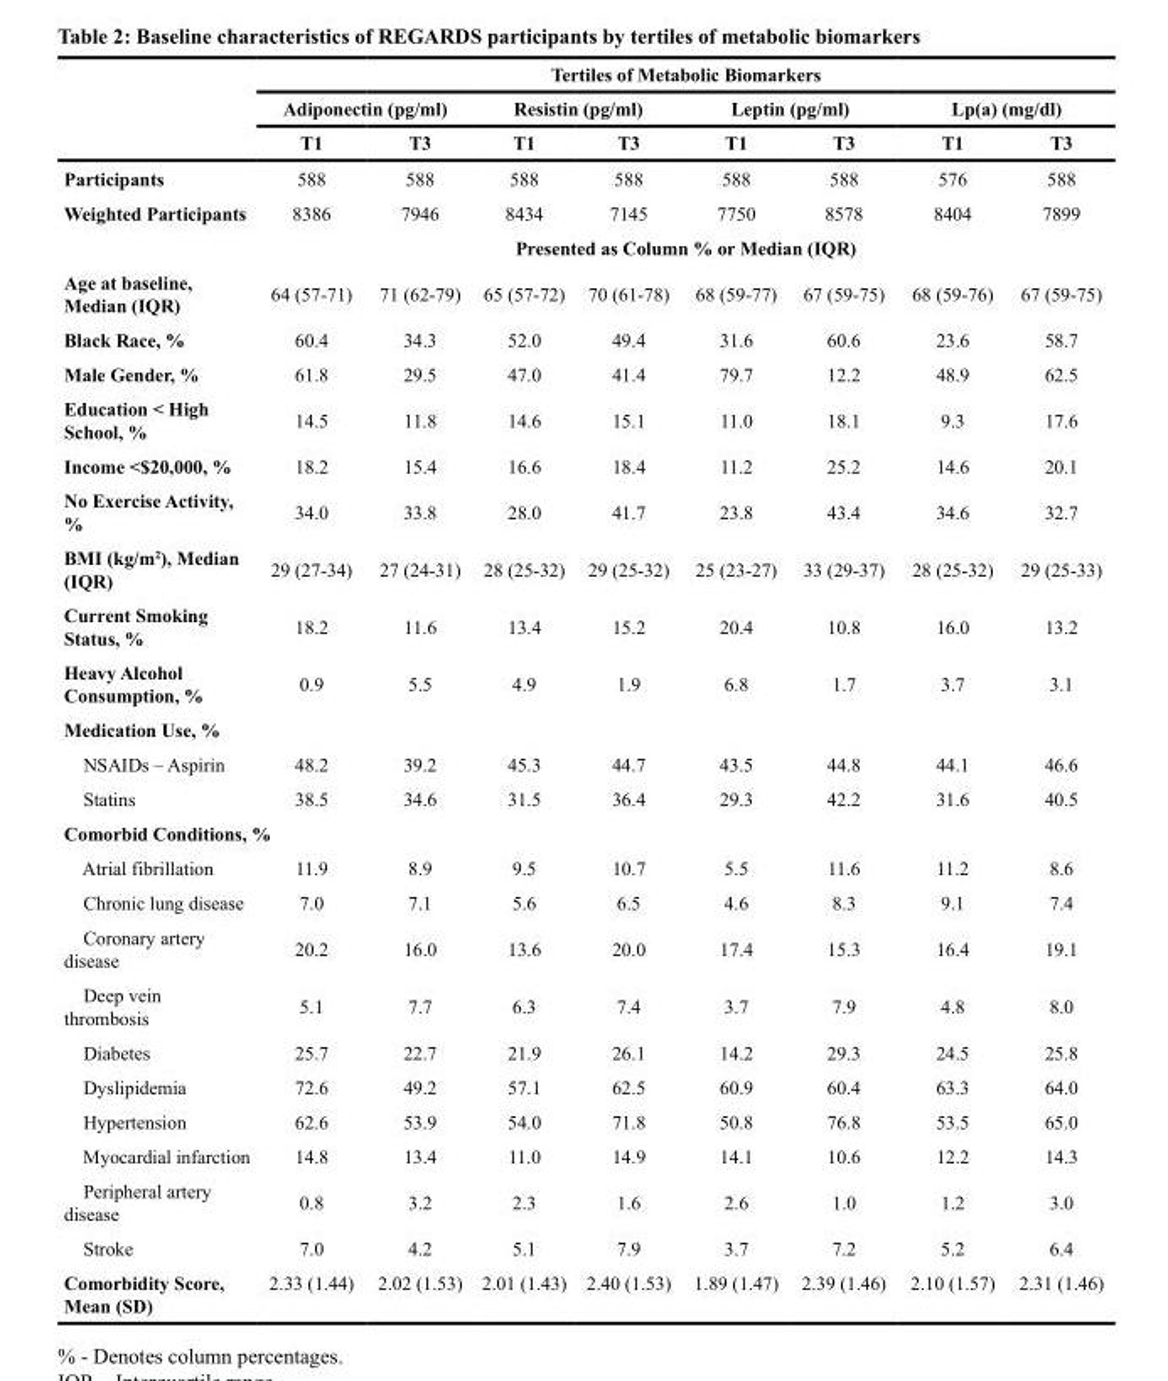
<table><thead><tr><td rowspan="3"></td><td colspan="8">Tertiles of Metabolic Biomarkers</td></tr><tr><td colspan="2">Adiponectin (pg/ml)</td><td colspan="2">Resistin (pg/ml)</td><td colspan="2">Leptin (pg/ml)</td><td colspan="2">Lp(a) (mg/dl)</td></tr><tr><td>T1</td><td>T3</td><td>T1</td><td>T3</td><td>T1</td><td>T3</td><td>T1</td><td>T3</td></tr></thead><tbody><tr><td>Participants</td><td>588</td><td>588</td><td>588</td><td>588</td><td>588</td><td>588</td><td>576</td><td>588</td></tr><tr><td rowspan="2">Weighted Participants</td><td>8386</td><td>7946</td><td>8434</td><td>7145</td><td>7750</td><td>8578</td><td>8404</td><td>7899</td></tr><tr><td colspan="8">Presented as Column % or Median (IQR)</td></tr><tr><td>Age at baseline, Median (IQR)</td><td>64 (57-71)</td><td>71 (62-79)</td><td>65 (57-72)</td><td>70 (61-78)</td><td>68 (59-77)</td><td>67 (59-75)</td><td>68 (59-76)</td><td>67 (59-75)</td></tr><tr><td>Black Race, %</td><td>60.4</td><td>34.3</td><td>52.0</td><td>49.4</td><td>31.6</td><td>60.6</td><td>23.6</td><td>58.7</td></tr><tr><td>Male Gender, %</td><td>61.8</td><td>29.5</td><td>47.0</td><td>41.4</td><td>79.7</td><td>12.2</td><td>48.9</td><td>62.5</td></tr><tr><td>Education &lt; High School, %</td><td>14.5</td><td>11.8</td><td>14.6</td><td>15.1</td><td>11.0</td><td>18.1</td><td>9.3</td><td>17.6</td></tr><tr><td>Income &lt;$20,000, %</td><td>18.2</td><td>15.4</td><td>16.6</td><td>18.4</td><td>11.2</td><td>25.2</td><td>14.6</td><td>20.1</td></tr><tr><td>No Exercise Activity, %</td><td>34.0</td><td>33.8</td><td>28.0</td><td>41.7</td><td>23.8</td><td>43.4</td><td>34.6</td><td>32.7</td></tr><tr><td>BMI (kg/m<sup>2</sup>), Median (IQR)</td><td>29 (27-34)</td><td>27 (24-31)</td><td>28 (25-32)</td><td>29 (25-32)</td><td>25 (23-27)</td><td>33 (29-37)</td><td>28 (25-32)</td><td>29 (25-33)</td></tr><tr><td>Current Smoking Status, %</td><td>18.2</td><td>11.6</td><td>13.4</td><td>15.2</td><td>20.4</td><td>10.8</td><td>16.0</td><td>13.2</td></tr><tr><td>Heavy Alcohol Consumption, %</td><td>0.9</td><td>5.5</td><td>4.9</td><td>1.9</td><td>6.8</td><td>1.7</td><td>3.7</td><td>3.1</td></tr><tr><td colspan="9">Medication Use, %</td></tr><tr><td>NSAIDs – Aspirin</td><td>48.2</td><td>39.2</td><td>45.3</td><td>44.7</td><td>43.5</td><td>44.8</td><td>44.1</td><td>46.6</td></tr><tr><td>Statins</td><td>38.5</td><td>34.6</td><td>31.5</td><td>36.4</td><td>29.3</td><td>42.2</td><td>31.6</td><td>40.5</td></tr><tr><td colspan="9">Comorbid Conditions, %</td></tr><tr><td>Atrial fibrillation</td><td>11.9</td><td>8.9</td><td>9.5</td><td>10.7</td><td>5.5</td><td>11.6</td><td>11.2</td><td>8.6</td></tr><tr><td>Chronic lung disease</td><td>7.0</td><td>7.1</td><td>5.6</td><td>6.5</td><td>4.6</td><td>8.3</td><td>9.1</td><td>7.4</td></tr><tr><td>Coronary artery disease</td><td>20.2</td><td>16.0</td><td>13.6</td><td>20.0</td><td>17.4</td><td>15.3</td><td>16.4</td><td>19.1</td></tr><tr><td>Deep vein thrombosis</td><td>5.1</td><td>7.7</td><td>6.3</td><td>7.4</td><td>3.7</td><td>7.9</td><td>4.8</td><td>8.0</td></tr><tr><td>Diabetes</td><td>25.7</td><td>22.7</td><td>21.9</td><td>26.1</td><td>14.2</td><td>29.3</td><td>24.5</td><td>25.8</td></tr><tr><td>Dyslipidemia</td><td>72.6</td><td>49.2</td><td>57.1</td><td>62.5</td><td>60.9</td><td>60.4</td><td>63.3</td><td>64.0</td></tr><tr><td>Hypertension</td><td>62.6</td><td>53.9</td><td>54.0</td><td>71.8</td><td>50.8</td><td>76.8</td><td>53.5</td><td>65.0</td></tr><tr><td>Myocardial infarction</td><td>14.8</td><td>13.4</td><td>11.0</td><td>14.9</td><td>14.1</td><td>10.6</td><td>12.2</td><td>14.3</td></tr><tr><td>Peripheral artery disease</td><td>0.8</td><td>3.2</td><td>2.3</td><td>1.6</td><td>2.6</td><td>1.0</td><td>1.2</td><td>3.0</td></tr><tr><td>Stroke</td><td>7.0</td><td>4.2</td><td>5.1</td><td>7.9</td><td>3.7</td><td>7.2</td><td>5.2</td><td>6.4</td></tr><tr><td>Comorbidity Score, Mean (SD)</td><td>2.33 (1.44)</td><td>2.02 (1.53)</td><td>2.01 (1.43)</td><td>2.40 (1.53)</td><td>1.89 (1.47)</td><td>2.39 (1.46)</td><td>2.10 (1.57)</td><td>2.31 (1.46)</td></tr></tbody></table>